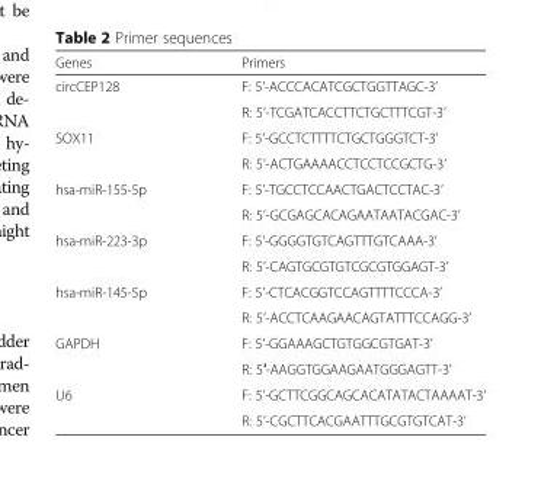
<table><thead><tr><td>Genes</td><td>Primers</td></tr></thead><tbody><tr><td rowspan="2">circCEP128</td><td>F: 5’-ACCCACATCGCTGGTTAGC-3’</td></tr><tr><td>R: 5’-TCGATCACCTTCTGCTTTCGT-3’</td></tr><tr><td rowspan="2">SOX11</td><td>F: 5’-GCCTCTTTTCTGCTGGGTCT-3’</td></tr><tr><td>R: 5’-ACTGAAAACCTCCTCCGCTG-3’</td></tr><tr><td rowspan="2">hsa-miR-155-5p</td><td>F: 5’-TGCCTCCAACTGACTCCTAC-3’</td></tr><tr><td>R: 5’-GCGAGCACAGAATAATACGAC-3’</td></tr><tr><td rowspan="2">hsa-miR-223-3p</td><td>F: 5’-GGGGTGTCAGTTTGTCAAA-3’</td></tr><tr><td>R: 5’-CAGTGCGTGTCGCGTGGAGT-3’</td></tr><tr><td rowspan="2">hsa-miR-145-5p</td><td>F: 5’-CTCACGGTCCAGTTTTCCCA-3’</td></tr><tr><td>R: 5’-ACCTCAAGAACAGTATTTCCAGG-3’</td></tr><tr><td rowspan="2">GAPDH</td><td>F: 5’-GGAAAGCTGTGGCGTGAT-3’</td></tr><tr><td>R: 5′-AAGGTGGAAGAATGGGAGTT-3’</td></tr><tr><td rowspan="2">U6</td><td>F: 5’-GCTTCGGCAGCACATATACTAAAAT-3’</td></tr><tr><td>R: 5’-CGCTTCACGAATTTGCGTGTCAT-3’</td></tr></tbody></table>